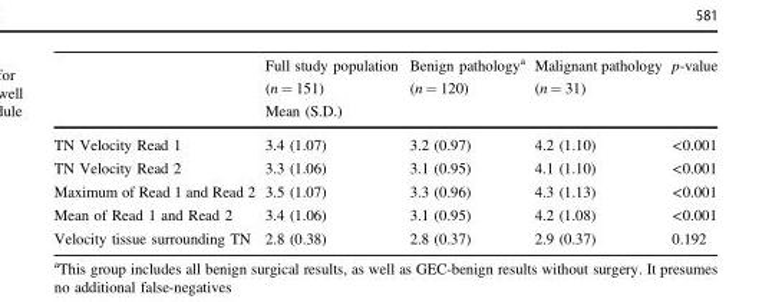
<table><thead><tr><td rowspan="3"></td><td rowspan="2">Full study population (n = 151)</td><td rowspan="2">Benign pathology<sup>a</sup> (n = 120)</td><td rowspan="2">Malignant pathology (n = 31)</td><td rowspan="3">p-value</td></tr><tr></tr><tr><td colspan="3">Mean (S.D.)</td></tr></thead><tbody><tr><td>TN Velocity Read 1</td><td>3.4 (1.07)</td><td>3.2 (0.97)</td><td>4.2 (1.10)</td><td>&lt;0.001</td></tr><tr><td>TN Velocity Read 2</td><td>3.3 (1.06)</td><td>3.1 (0.95)</td><td>4.1 (1.10)</td><td>&lt;0.001</td></tr><tr><td>Maximum of Read 1 and Read 2</td><td>3.5 (1.07)</td><td>3.3 (0.96)</td><td>4.3 (1.13)</td><td>&lt;0.001</td></tr><tr><td>Mean of Read 1 and Read 2</td><td>3.4 (1.06)</td><td>3.1 (0.95)</td><td>4.2 (1.08)</td><td>&lt;0.001</td></tr><tr><td>Velocity tissue surrounding TN</td><td>2.8 (0.38)</td><td>2.8 (0.37)</td><td>2.9 (0.37)</td><td>0.192</td></tr></tbody></table>